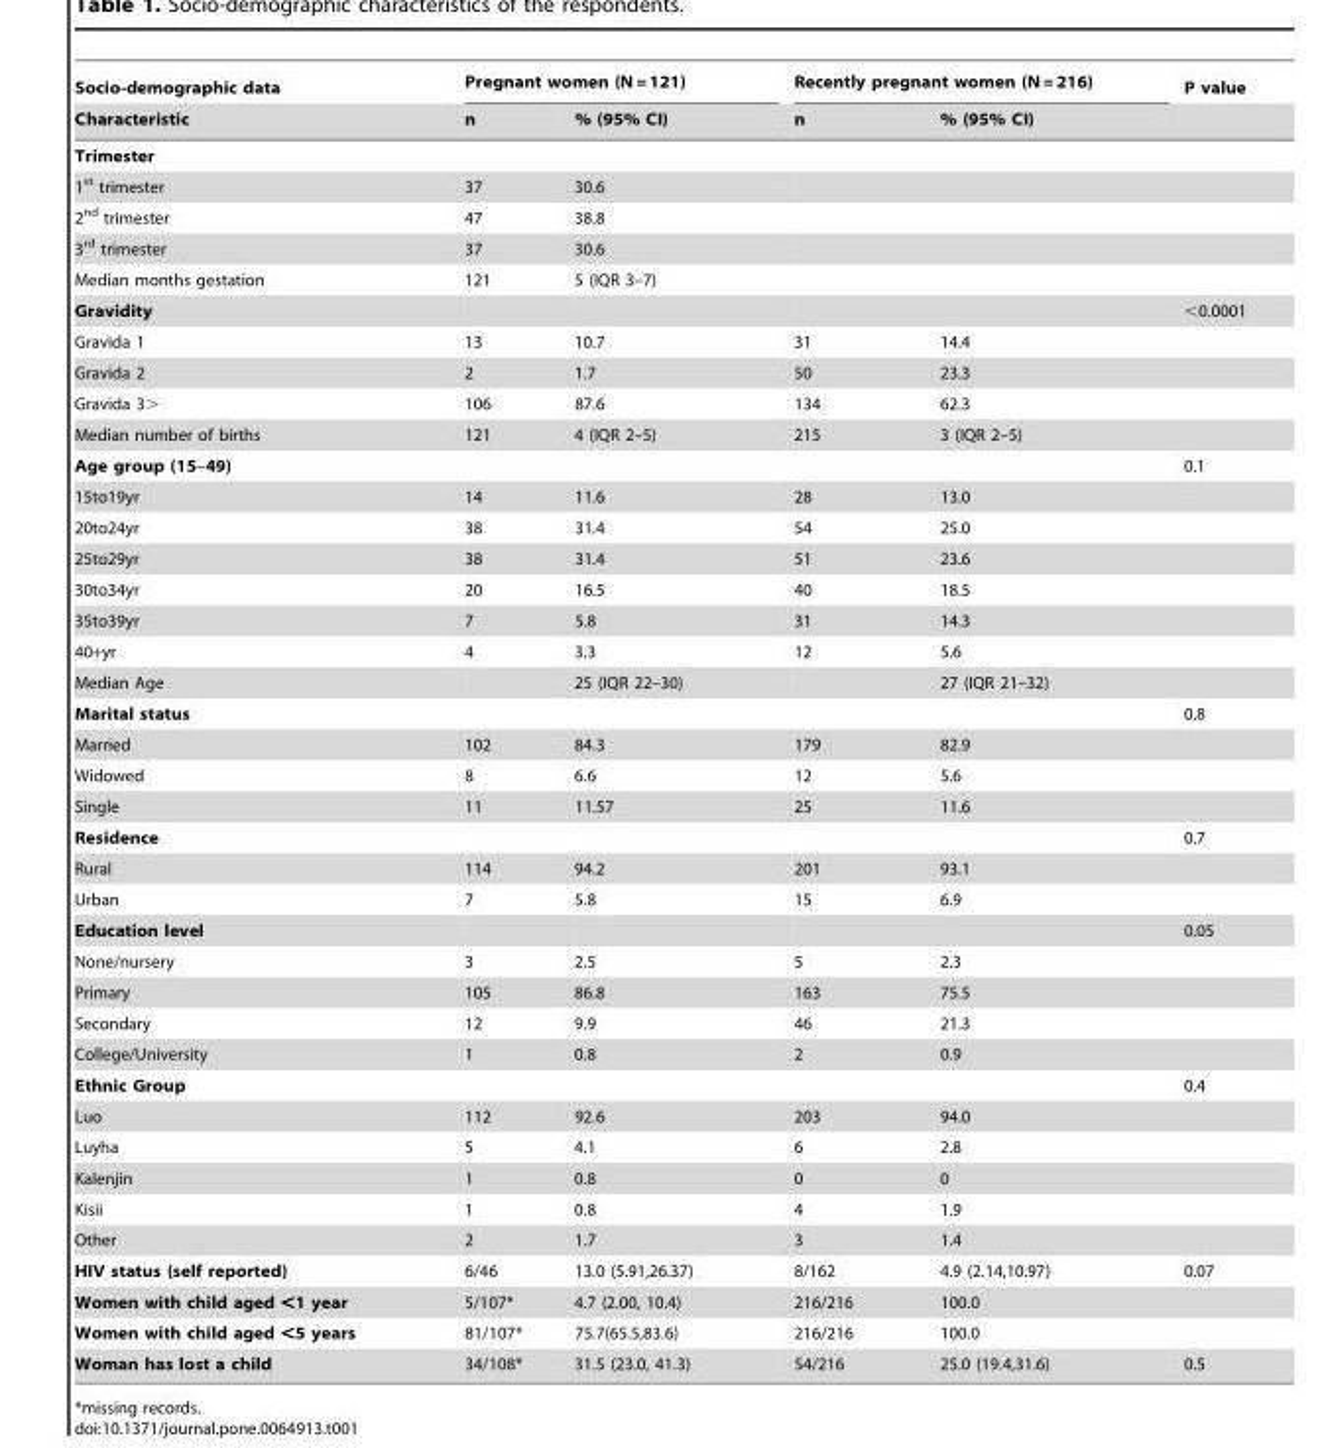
<table><thead><tr><td rowspan="2">Socio-demographic data Characteristic</td><td colspan="2">Pregnant women (N = 121)</td><td colspan="2">Recently pregnant women (N = 216)</td><td rowspan="2">P value</td></tr><tr><td>n</td><td>% (95% CI)</td><td>n</td><td>% (95% CI)</td></tr></thead><tbody><tr><td colspan="6">Trimester</td></tr><tr><td>1<sup>st</sup> trimester</td><td>37</td><td>30.6</td><td></td><td></td><td></td></tr><tr><td>2<sup>nd</sup> trimester</td><td>47</td><td>38.8</td><td></td><td></td><td></td></tr><tr><td>3<sup>rd</sup> trimester</td><td>37</td><td>30.6</td><td></td><td></td><td></td></tr><tr><td>Median months gestation</td><td>121</td><td>5 (IQR 3–7)</td><td></td><td></td><td></td></tr><tr><td>Gravidity</td><td></td><td></td><td></td><td></td><td>&lt;0.0001</td></tr><tr><td>Gravida 1</td><td>13</td><td>10.7</td><td>31</td><td>14.4</td><td></td></tr><tr><td>Gravida 2</td><td>2</td><td>1.7</td><td>50</td><td>23.3</td><td></td></tr><tr><td>Gravida 3&gt;</td><td>106</td><td>87.6</td><td>134</td><td>62.3</td><td></td></tr><tr><td>Median number of births</td><td>121</td><td>4 (IQR 2–5)</td><td>215</td><td>3 (IQR 2–5)</td><td></td></tr><tr><td>Age group (15–49)</td><td></td><td></td><td></td><td></td><td>0.1</td></tr><tr><td>15to19yr</td><td>14</td><td>11.6</td><td>28</td><td>13.0</td><td></td></tr><tr><td>20to24yr</td><td>38</td><td>31.4</td><td>54</td><td>25.0</td><td></td></tr><tr><td>25to29yr</td><td>38</td><td>31.4</td><td>51</td><td>23.6</td><td></td></tr><tr><td>30to34yr</td><td>20</td><td>16.5</td><td>40</td><td>18.5</td><td></td></tr><tr><td>35to39yr</td><td>7</td><td>5.8</td><td>31</td><td>14.3</td><td></td></tr><tr><td>40+yr</td><td>4</td><td>3.3</td><td>12</td><td>5.6</td><td></td></tr><tr><td>Median Age</td><td></td><td>25 (IQR 22–30)</td><td></td><td>27 (IQR 21–32)</td><td></td></tr><tr><td>Marital status</td><td></td><td></td><td></td><td></td><td>0.8</td></tr><tr><td>Married</td><td>102</td><td>84.3</td><td>179</td><td>82.9</td><td></td></tr><tr><td>Widowed</td><td>8</td><td>6.6</td><td>12</td><td>5.6</td><td></td></tr><tr><td>Single</td><td>11</td><td>11.57</td><td>25</td><td>11.6</td><td></td></tr><tr><td>Residence</td><td></td><td></td><td></td><td></td><td>0.7</td></tr><tr><td>Rural</td><td>114</td><td>94.2</td><td>201</td><td>93.1</td><td></td></tr><tr><td>Urban</td><td>7</td><td>5.8</td><td>15</td><td>6.9</td><td></td></tr><tr><td>Education level</td><td></td><td></td><td></td><td></td><td>0.05</td></tr><tr><td>None/nursery</td><td>3</td><td>2.5</td><td>5</td><td>2.3</td><td></td></tr><tr><td>Primary</td><td>105</td><td>86.8</td><td>163</td><td>75.5</td><td></td></tr><tr><td>Secondary</td><td>12</td><td>9.9</td><td>46</td><td>21.3</td><td></td></tr><tr><td>College/University</td><td>1</td><td>0.8</td><td>2</td><td>0.9</td><td></td></tr><tr><td>Ethnic Group</td><td></td><td></td><td></td><td></td><td>0.4</td></tr><tr><td>Luo</td><td>112</td><td>92.6</td><td>203</td><td>94.0</td><td></td></tr><tr><td>Luyha</td><td>5</td><td>4.1</td><td>6</td><td>2.8</td><td></td></tr><tr><td>Kalenjin</td><td>1</td><td>0.8</td><td>0</td><td>0</td><td></td></tr><tr><td>Kisii</td><td>1</td><td>0.8</td><td>4</td><td>1.9</td><td></td></tr><tr><td>Other</td><td>2</td><td>1.7</td><td>3</td><td>1.4</td><td></td></tr><tr><td>HIV status (self reported)</td><td>6/46</td><td>13.0 (5.91,26.37)</td><td>8/162</td><td>4.9 (2.14,10.97)</td><td>0.07</td></tr><tr><td>Women with child aged &lt;1 year</td><td>5/107*</td><td>4.7 (2.00, 10.4)</td><td>216/216</td><td>100.0</td><td></td></tr><tr><td>Women with child aged &lt;5 years</td><td>81/107*</td><td>75.7(65.5,83.6)</td><td>216/216</td><td>100.0</td><td></td></tr><tr><td>Woman has lost a child</td><td>34/108*</td><td>31.5 (23.0, 41.3)</td><td>54/216</td><td>25.0 (19.4,31.6)</td><td>0.5</td></tr></tbody></table>